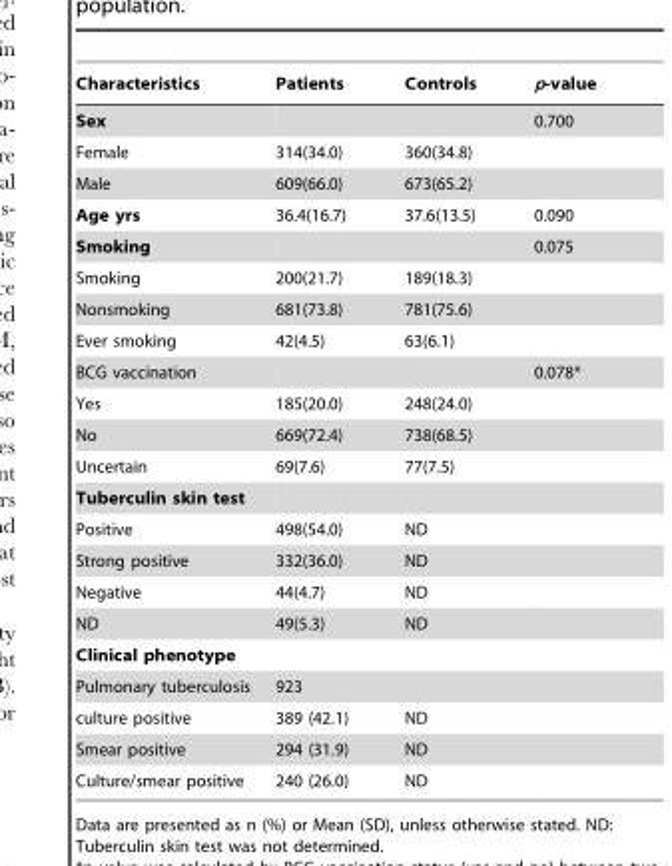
<table><thead><tr><td>Characteristics</td><td>Patients</td><td>Controls</td><td>p-value</td></tr></thead><tbody><tr><td>Sex</td><td></td><td></td><td>0.700</td></tr><tr><td>Female</td><td>314(34.0)</td><td>360(34.8)</td><td></td></tr><tr><td>Male</td><td>609(66.0)</td><td>673(65.2)</td><td></td></tr><tr><td>Age yrs</td><td>36.4(16.7)</td><td>37.6(13.5)</td><td>0.090</td></tr><tr><td>Smoking</td><td></td><td></td><td>0.075</td></tr><tr><td>Smoking</td><td>200(21.7)</td><td>189(18.3)</td><td></td></tr><tr><td>Nonsmoking</td><td>681(73.8)</td><td>781(75.6)</td><td></td></tr><tr><td>Ever smoking</td><td>42(4.5)</td><td>63(6.1)</td><td></td></tr><tr><td>BCG vaccination</td><td></td><td></td><td>0.078*</td></tr><tr><td>Yes</td><td>185(20.0)</td><td>248(24.0)</td><td></td></tr><tr><td>No</td><td>669(72.4)</td><td>738(68.5)</td><td></td></tr><tr><td>Uncertain</td><td>69(7.6)</td><td>77(7.5)</td><td></td></tr><tr><td colspan="4">Tuberculin skin test</td></tr><tr><td>Positive</td><td>498(54.0)</td><td>ND</td><td></td></tr><tr><td>Strong positive</td><td>332(36.0)</td><td>ND</td><td></td></tr><tr><td>Negative</td><td>44(4.7)</td><td>ND</td><td></td></tr><tr><td>ND</td><td>49(5.3)</td><td>ND</td><td></td></tr><tr><td colspan="4">Clinical phenotype</td></tr><tr><td>Pulmonary tuberculosis</td><td>923</td><td></td><td></td></tr><tr><td>culture positive</td><td>389 (42.1)</td><td>ND</td><td></td></tr><tr><td>Smear positive</td><td>294 (31.9)</td><td>ND</td><td></td></tr><tr><td>Culture/smear positive</td><td>240 (26.0)</td><td>ND</td><td></td></tr></tbody></table>